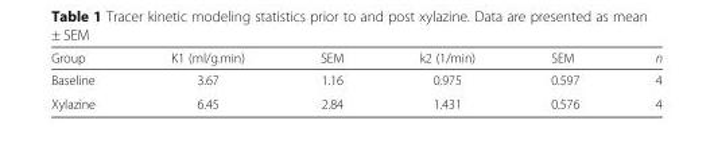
<table><thead><tr><td>Group</td><td>K1 (ml/g.min)</td><td>SEM</td><td>k2 (1/min)</td><td>SEM</td><td>n</td></tr></thead><tbody><tr><td>Baseline</td><td>3.67</td><td>1.16</td><td>0.975</td><td>0.597</td><td>4</td></tr><tr><td>Xylazine</td><td>6.45</td><td>2.84</td><td>1.431</td><td>0.576</td><td>4</td></tr></tbody></table>